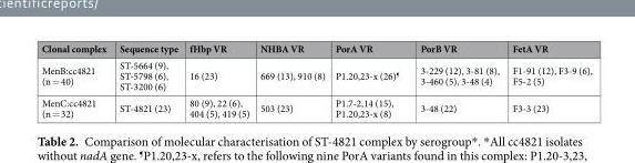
<table><thead><tr><td>Clonal complex</td><td>Sequence type</td><td>fHbp VR</td><td>NHBA VR</td><td>PorA VR</td><td>PorB VR</td><td>FetA VR</td></tr></thead><tbody><tr><td>MenB:cc4821 (n = 40)</td><td>ST-5664 (9), ST-5798 (6), ST-3200 (6)</td><td>16 (23)</td><td>669 (13), 910 (8)</td><td>P1.20,23-x (26)<sup>¶</sup></td><td>3-229 (12), 3-81 (8), 3-460 (5), 3-48 (4)</td><td>F1-91 (12), F3-9 (6), F5-2 (5)</td></tr><tr><td>MenC:cc4821 (n = 32)</td><td>ST-4821 (23)</td><td>80 (9), 22 (6), 404 (5), 419 (5)</td><td>503 (23)</td><td>P1.7-2,14 (15), P1.20,23-x (8)</td><td>3-48 (22)</td><td>F3-3 (23)</td></tr></tbody></table>